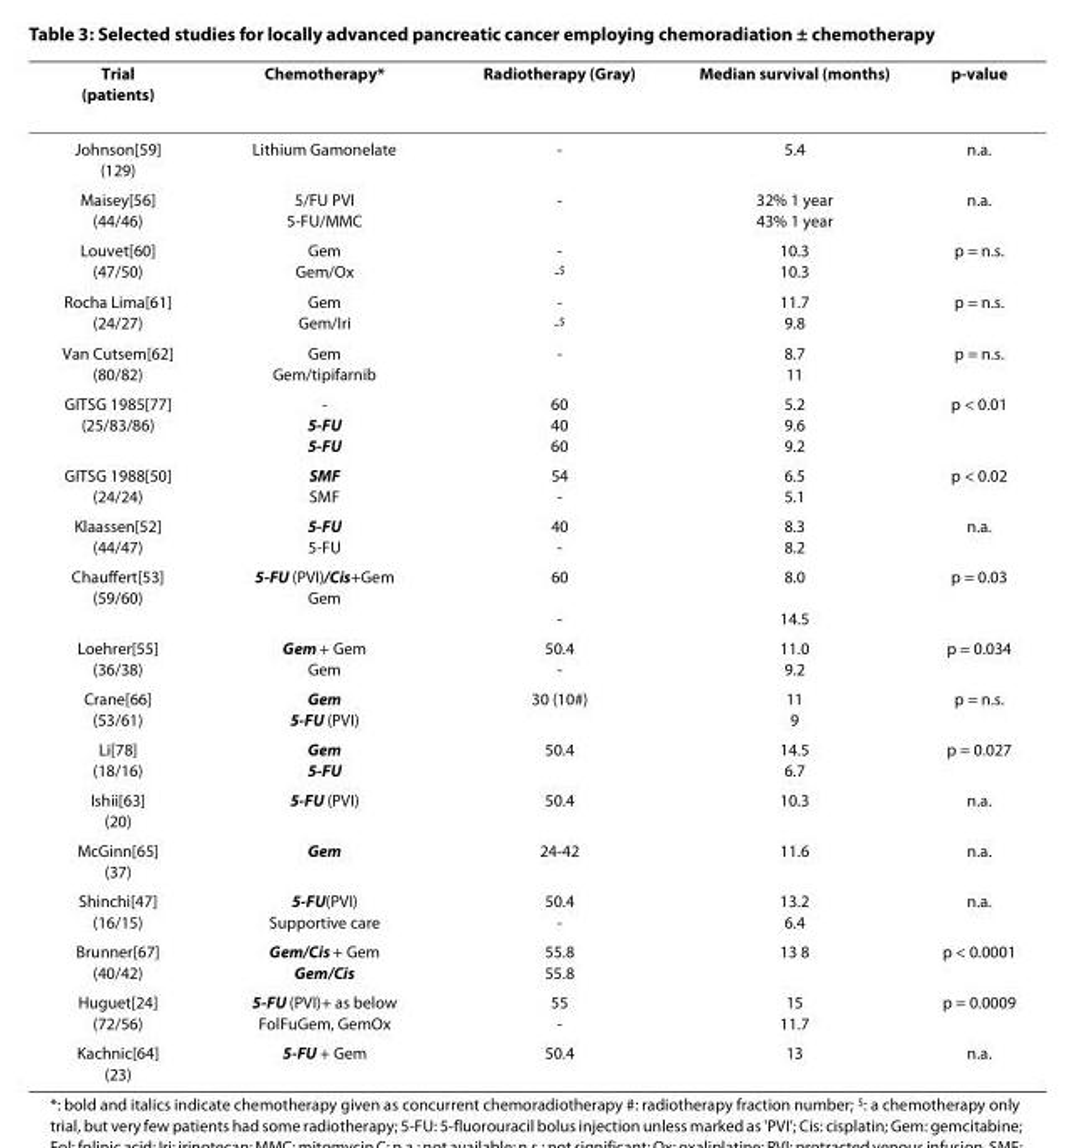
<table><thead><tr><td>Trial (patients)</td><td>Chemotherapy*</td><td>Radiotherapy (Gray)</td><td>Median survival (months)</td><td>p-value</td></tr></thead><tbody><tr><td>Johnson[59] (129)</td><td>Lithium Gamonelate</td><td>-</td><td>5.4</td><td>n.a.</td></tr><tr><td>Maisey[56] (44/46)</td><td>5/FU PVI 5-FU/MMC</td><td>-</td><td>32% 1 year 43% 1 year</td><td>n.a.</td></tr><tr><td>Louvet[60] (47/50)</td><td>Gem Gem/Ox</td><td>- -<sup>$</sup></td><td>10.3 10.3</td><td>p = n.s.</td></tr><tr><td>Rocha Lima[61] (24/27)</td><td>Gem Gem/Iri</td><td>- -<sup>$</sup></td><td>11.7 9.8</td><td>p = n.s.</td></tr><tr><td>Van Cutsem[62] (80/82)</td><td>Gem Gem/tipifarnib</td><td>-</td><td>8.7 11</td><td>p = n.s.</td></tr><tr><td>GITSG 1985[77] (25/83/86)</td><td>- 5-FU 5-FU</td><td>60 40 60</td><td>5.2 9.6 9.2</td><td>p &lt; 0.01</td></tr><tr><td>GITSG 1988[50] (24/24)</td><td>SMF SMF</td><td>54 -</td><td>6.5 5.1</td><td>p &lt; 0.02</td></tr><tr><td>Klaassen[52] (44/47)</td><td>5-FU 5-FU</td><td>40 -</td><td>8.3 8.2</td><td>n.a.</td></tr><tr><td>Chauffert[53] (59/60)</td><td>5-FU (PVI)/Cis+Gem Gem</td><td>60 -</td><td>8.0 14.5</td><td>p = 0.03</td></tr><tr><td>Loehrer[55] (36/38)</td><td>Gem + Gem Gem</td><td>50.4 -</td><td>11.0 9.2</td><td>p = 0.034</td></tr><tr><td>Crane[66] (53/61)</td><td>Gem 5-FU (PVI)</td><td>30 (10#)</td><td>11 9</td><td>p = n.s.</td></tr><tr><td>Li[78] (18/16)</td><td>Gem 5-FU</td><td>50.4</td><td>14.5 6.7</td><td>p = 0.027</td></tr><tr><td>Ishii[63] (20)</td><td>5-FU (PVI)</td><td>50.4</td><td>10.3</td><td>n.a.</td></tr><tr><td>McGinn[65] (37)</td><td>Gem</td><td>24-42</td><td>11.6</td><td>n.a.</td></tr><tr><td>Shinchi[47] (16/15)</td><td>5-FU(PVI) Supportive care</td><td>50.4 -</td><td>13.2 6.4</td><td>n.a.</td></tr><tr><td>Brunner[67] (40/42)</td><td>Gem/Cis + Gem Gem/Cis</td><td>55.8 55.8</td><td>13 8</td><td>p &lt; 0.0001</td></tr><tr><td>Huguet[24] (72/56)</td><td>5-FU (PVI)+ as below FolFuGem, GemOx</td><td>55 -</td><td>15 11.7</td><td>p = 0.0009</td></tr><tr><td>Kachnic[64] (23)</td><td>5-FU + Gem</td><td>50.4</td><td>13</td><td>n.a.</td></tr></tbody></table>